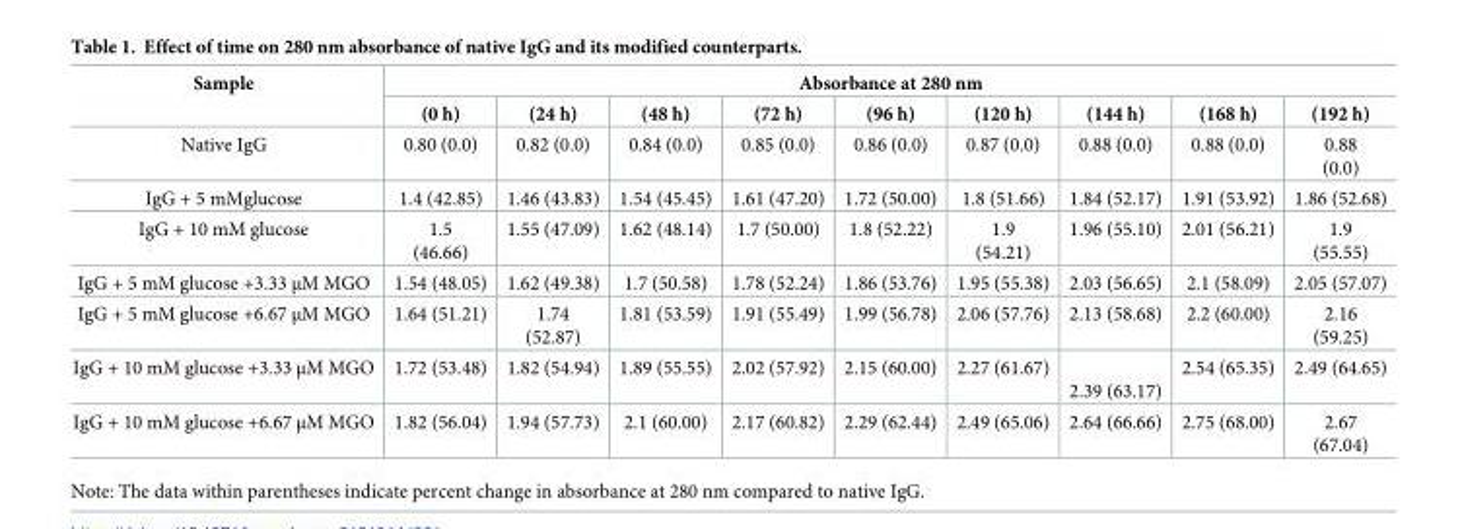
<table><thead><tr><td rowspan="2">Sample</td><td colspan="9">Absorbance at 280 nm</td></tr><tr><td>(0 h)</td><td>(24 h)</td><td>(48 h)</td><td>(72 h)</td><td>(96 h)</td><td>(120 h)</td><td>(144 h)</td><td>(168 h)</td><td>(192 h)</td></tr></thead><tbody><tr><td>Native IgG</td><td>0.80 (0.0)</td><td>0.82 (0.0)</td><td>0.84 (0.0)</td><td>0.85 (0.0)</td><td>0.86 (0.0)</td><td>0.87 (0.0)</td><td>0.88 (0.0)</td><td>0.88 (0.0)</td><td>0.88 (0.0)</td></tr><tr><td>IgG + 5 mMglucose</td><td>1.4 (42.85)</td><td>1.46 (43.83)</td><td>1.54 (45.45)</td><td>1.61 (47.20)</td><td>1.72 (50.00)</td><td>1.8 (51.66)</td><td>1.84 (52.17)</td><td>1.91 (53.92)</td><td>1.86 (52.68)</td></tr><tr><td>IgG + 10 mM glucose</td><td>1.5 (46.66)</td><td>1.55 (47.09)</td><td>1.62 (48.14)</td><td>1.7 (50.00)</td><td>1.8 (52.22)</td><td>1.9 (54.21)</td><td>1.96 (55.10)</td><td>2.01 (56.21)</td><td>1.9 (55.55)</td></tr><tr><td>IgG + 5 mM glucose +3.33 μM MGO</td><td>1.54 (48.05)</td><td>1.62 (49.38)</td><td>1.7 (50.58)</td><td>1.78 (52.24)</td><td>1.86 (53.76)</td><td>1.95 (55.38)</td><td>2.03 (56.65)</td><td>2.1 (58.09)</td><td>2.05 (57.07)</td></tr><tr><td>IgG + 5 mM glucose +6.67 μM MGO</td><td>1.64 (51.21)</td><td>1.74 (52.87)</td><td>1.81 (53.59)</td><td>1.91 (55.49)</td><td>1.99 (56.78)</td><td>2.06 (57.76)</td><td>2.13 (58.68)</td><td>2.2 (60.00)</td><td>2.16 (59.25)</td></tr><tr><td>IgG + 10 mM glucose +3.33 μM MGO</td><td>1.72 (53.48)</td><td>1.82 (54.94)</td><td>1.89 (55.55)</td><td>2.02 (57.92)</td><td>2.15 (60.00)</td><td>2.27 (61.67)</td><td>2.39 (63.17)</td><td>2.54 (65.35)</td><td>2.49 (64.65)</td></tr><tr><td>IgG + 10 mM glucose +6.67 μM MGO</td><td>1.82 (56.04)</td><td>1.94 (57.73)</td><td>2.1 (60.00)</td><td>2.17 (60.82)</td><td>2.29 (62.44)</td><td>2.49 (65.06)</td><td>2.64 (66.66)</td><td>2.75 (68.00)</td><td>2.67 (67.04)</td></tr></tbody></table>